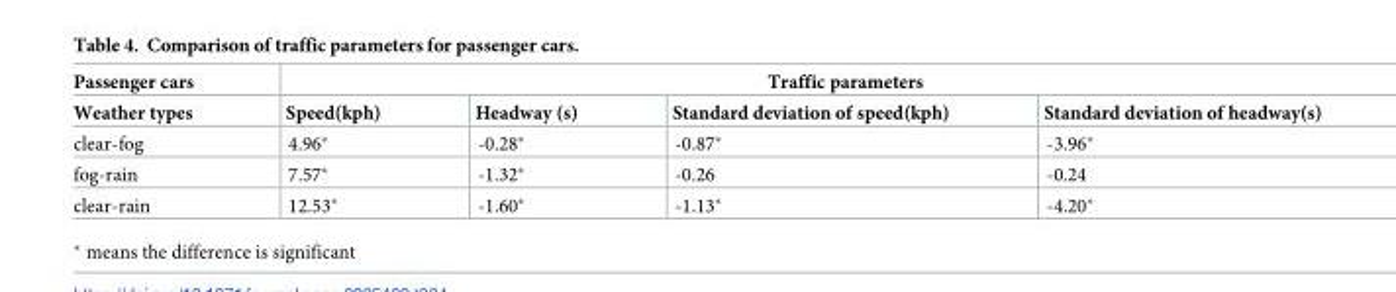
<table><thead><tr><td rowspan="2">Passenger cars Weather types</td><td colspan="4">Traffic parameters</td></tr><tr><td>Speed(kph)</td><td>Headway (s)</td><td>Standard deviation of speed(kph)</td><td>Standard deviation of headway(s)</td></tr></thead><tbody><tr><td>clear-fog</td><td>4.96*</td><td>-0.28*</td><td>-0.87*</td><td>-3.96*</td></tr><tr><td>fog-rain</td><td>7.57*</td><td>-1.32*</td><td>-0.26</td><td>-0.24</td></tr><tr><td>clear-rain</td><td>12.53*</td><td>-1.60*</td><td>-1.13*</td><td>-4.20*</td></tr></tbody></table>